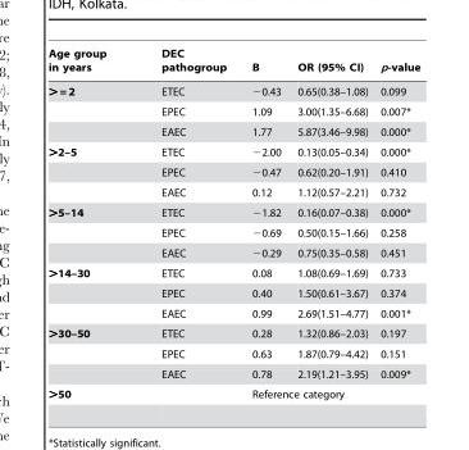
<table><thead><tr><td>Age group in years</td><td>DEC pathogroup</td><td>B</td><td>OR (95% CI)</td><td>p-value</td></tr></thead><tbody><tr><td rowspan="3">&gt; = 2</td><td>ETEC</td><td>−0.43</td><td>0.65(0.38–1.08)</td><td>0.099</td></tr><tr><td>EPEC</td><td>1.09</td><td>3.00(1.35–6.68)</td><td>0.007*</td></tr><tr><td>EAEC</td><td>1.77</td><td>5.87(3.46–9.98)</td><td>0.000*</td></tr><tr><td rowspan="3">&gt;2–5</td><td>ETEC</td><td>−2.00</td><td>0.13(0.05–0.34)</td><td>0.000*</td></tr><tr><td>EPEC</td><td>−0.47</td><td>0.62(0.20–1.91)</td><td>0.410</td></tr><tr><td>EAEC</td><td>0.12</td><td>1.12(0.57–2.21)</td><td>0.732</td></tr><tr><td rowspan="3">&gt;5–14</td><td>ETEC</td><td>−1.82</td><td>0.16(0.07–0.38)</td><td>0.000*</td></tr><tr><td>EPEC</td><td>−0.69</td><td>0.50(0.15–1.66)</td><td>0.258</td></tr><tr><td>EAEC</td><td>−0.29</td><td>0.75(0.35–0.58)</td><td>0.451</td></tr><tr><td rowspan="3">&gt;14–30</td><td>ETEC</td><td>0.08</td><td>1.08(0.69–1.69)</td><td>0.733</td></tr><tr><td>EPEC</td><td>0.40</td><td>1.50(0.61–3.67)</td><td>0.374</td></tr><tr><td>EAEC</td><td>0.99</td><td>2.69(1.51–4.77)</td><td>0.001*</td></tr><tr><td rowspan="3">&gt;30–50</td><td>ETEC</td><td>0.28</td><td>1.32(0.86–2.03)</td><td>0.197</td></tr><tr><td>EPEC</td><td>0.63</td><td>1.87(0.79–4.42)</td><td>0.151</td></tr><tr><td>EAEC</td><td>0.78</td><td>2.19(1.21–3.95)</td><td>0.009*</td></tr><tr><td>&gt;50</td><td></td><td colspan="3">Reference category</td></tr></tbody></table>